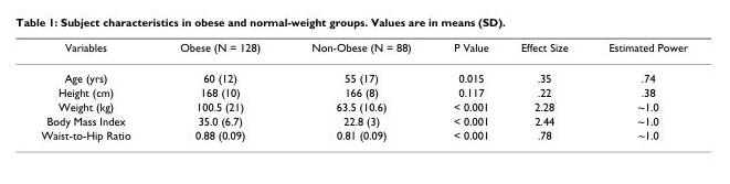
<table><thead><tr><td>Variables</td><td>Obese (N = 128)</td><td>Non-Obese (N = 88)</td><td>P Value</td><td>Effect Size</td><td>Estimated Power</td></tr></thead><tbody><tr><td>Age (yrs)</td><td>60 (12)</td><td>55 (17)</td><td>0.015</td><td>.35</td><td>.74</td></tr><tr><td>Height (cm)</td><td>168 (10)</td><td>166 (8)</td><td>0.117</td><td>.22</td><td>.38</td></tr><tr><td>Weight (kg)</td><td>100.5 (21)</td><td>63.5 (10.6)</td><td>&lt; 0.001</td><td>2.28</td><td>~1.0</td></tr><tr><td>Body Mass Index</td><td>35.0 (6.7)</td><td>22.8 (3)</td><td>&lt; 0.001</td><td>2.44</td><td>~1.0</td></tr><tr><td>Waist-to-Hip Ratio</td><td>0.88 (0.09)</td><td>0.81 (0.09)</td><td>&lt; 0.001</td><td>.78</td><td>~1.0</td></tr></tbody></table>